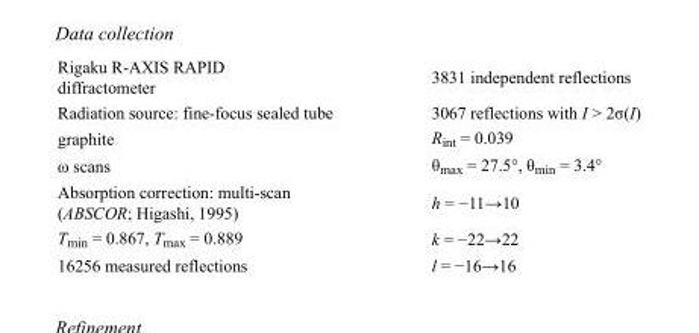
<table><tbody><tr><td>Rigaku R-AXIS RAPID diffractometer</td><td>3831 independent reflections</td></tr><tr><td>Radiation source: fine-focus sealed tube</td><td>3067 reflections with I &gt; 2σ(I)</td></tr><tr><td>graphite</td><td>R<sub>int</sub> = 0.039</td></tr><tr><td>ω scans</td><td>θ<sub>max</sub> = 27.5°, θ<sub>min</sub> = 3.4°</td></tr><tr><td>Absorption correction: multi-scan (ABSCOR; Higashi, 1995)</td><td>h = −11→10</td></tr><tr><td>T<sub>min</sub> = 0.867, T<sub>max</sub> = 0.889</td><td>k = −22→22</td></tr><tr><td>16256 measured reflections</td><td>l = −16→16</td></tr></tbody></table>